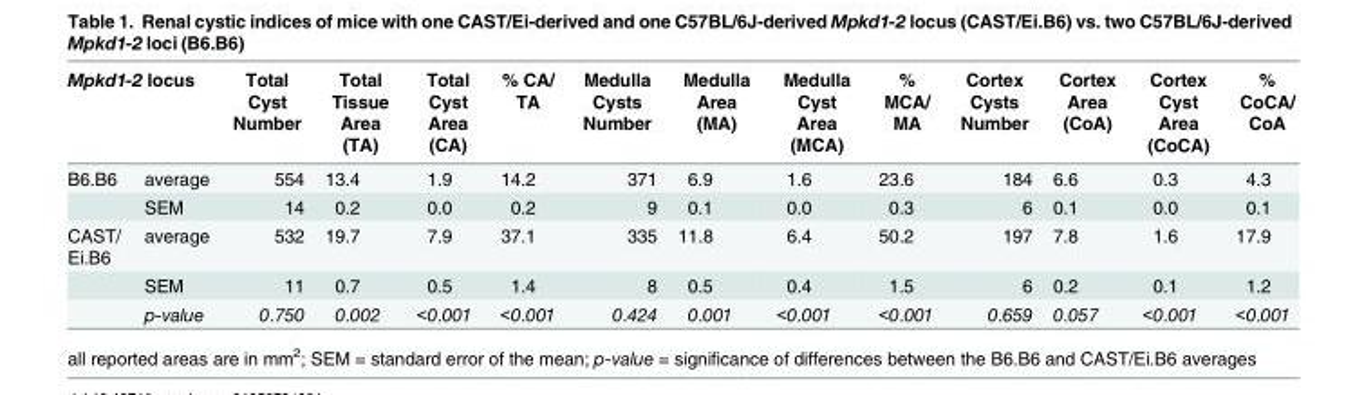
<table><thead><tr><td colspan="2">Mpkd1-2 locus</td><td rowspan="2">Total Cyst Number 554</td><td rowspan="2">Total Tissue Area (TA) 13.4</td><td rowspan="2">Total Cyst Area (CA) 1.9</td><td rowspan="2">% CA/ TA 14.2</td><td rowspan="2">Medulla Cysts Number 371</td><td rowspan="2">Medulla Area (MA) 6.9</td><td rowspan="2">Medulla Cyst Area (MCA) 1.6</td><td rowspan="2">% MCA/ MA 23.6</td><td rowspan="2">Cortex Cysts Number 184</td><td rowspan="2">Cortex Area (CoA) 6.6</td><td rowspan="2">Cortex Cyst Area (CoCA) 0.3</td><td rowspan="2">% CoCA/ CoA 4.3</td></tr><tr><td>B6.B6</td><td>average</td></tr></thead><tbody><tr><td></td><td>SEM</td><td>14</td><td>0.2</td><td>0.0</td><td>0.2</td><td>9</td><td>0.1</td><td>0.0</td><td>0.3</td><td>6</td><td>0.1</td><td>0.0</td><td>0.1</td></tr><tr><td rowspan="3">CAST/ Ei.B6</td><td>average</td><td>532</td><td>19.7</td><td>7.9</td><td>37.1</td><td>335</td><td>11.8</td><td>6.4</td><td>50.2</td><td>197</td><td>7.8</td><td>1.6</td><td>17.9</td></tr><tr><td>SEM</td><td>11</td><td>0.7</td><td>0.5</td><td>1.4</td><td>8</td><td>0.5</td><td>0.4</td><td>1.5</td><td>6</td><td>0.2</td><td>0.1</td><td>1.2</td></tr><tr><td>p-value</td><td>0.750</td><td>0.002</td><td>&lt;0.001</td><td>&lt;0.001</td><td>0.424</td><td>0.001</td><td>&lt;0.001</td><td>&lt;0.001</td><td>0.659</td><td>0.057</td><td>&lt;0.001</td><td>&lt;0.001</td></tr></tbody></table>